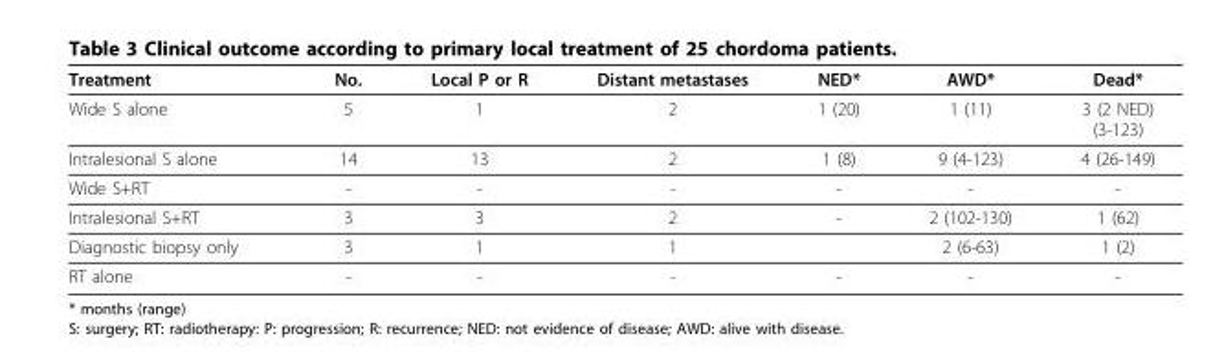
<table><thead><tr><td>Treatment</td><td>No.</td><td>Local P or R</td><td>Distant metastases</td><td>NED*</td><td>AWD*</td><td>Dead*</td></tr></thead><tbody><tr><td>Wide S alone</td><td>5</td><td>1</td><td>2</td><td>1 (20)</td><td>1 (11)</td><td>3 (2 NED) (3-123)</td></tr><tr><td>Intralesional S alone</td><td>14</td><td>13</td><td>2</td><td>1 (8)</td><td>9 (4-123)</td><td>4 (26-149)</td></tr><tr><td>Wide S+RT</td><td>-</td><td>-</td><td>-</td><td>-</td><td>-</td><td>-</td></tr><tr><td>Intralesional S+RT</td><td>3</td><td>3</td><td>2</td><td>-</td><td>2 (102-130)</td><td>1 (62)</td></tr><tr><td>Diagnostic biopsy only</td><td>3</td><td>1</td><td>1</td><td></td><td>2 (6-63)</td><td>1 (2)</td></tr><tr><td>RT alone</td><td>-</td><td>-</td><td>-</td><td>-</td><td>-</td><td>-</td></tr></tbody></table>